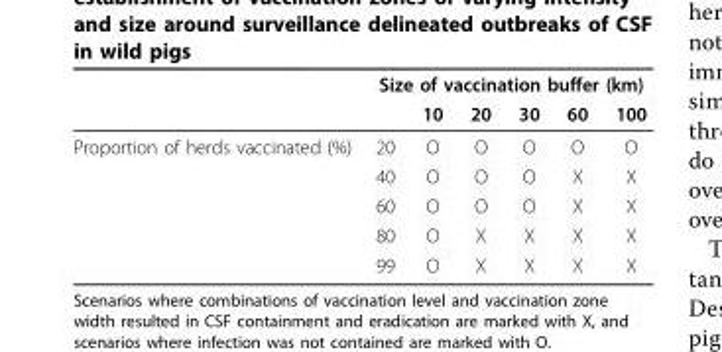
<table><thead><tr><td rowspan="2"></td><td colspan="6">Size of vaccination buffer (km)</td></tr><tr><td></td><td>10</td><td>20</td><td>30</td><td>60</td><td>100</td></tr></thead><tbody><tr><td rowspan="5">Proportion of herds vaccinated (%)</td><td>20</td><td>O</td><td>O</td><td>O</td><td>O</td><td>O</td></tr><tr><td>40</td><td>O</td><td>O</td><td>O</td><td>X</td><td>X</td></tr><tr><td>60</td><td>O</td><td>O</td><td>O</td><td>X</td><td>X</td></tr><tr><td>80</td><td>O</td><td>X</td><td>X</td><td>X</td><td>X</td></tr><tr><td>99</td><td>O</td><td>X</td><td>X</td><td>X</td><td>X</td></tr></tbody></table>